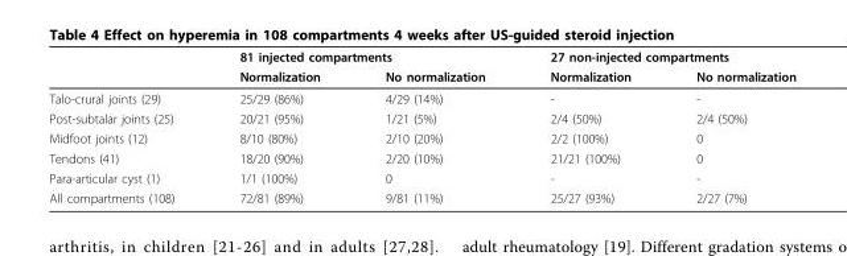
<table><thead><tr><td rowspan="2"></td><td colspan="2">81 injected compartments</td><td colspan="2">27 non-injected compartments</td></tr><tr><td>Normalization</td><td>No normalization</td><td>Normalization</td><td>No normalization</td></tr></thead><tbody><tr><td>Talo-crural joints (29)</td><td>25/29 (86%)</td><td>4/29 (14%)</td><td>-</td><td>-</td></tr><tr><td>Post-subtalar joints (25)</td><td>20/21 (95%)</td><td>1/21 (5%)</td><td>2/4 (50%)</td><td>2/4 (50%)</td></tr><tr><td>Midfoot joints (12)</td><td>8/10 (80%)</td><td>2/10 (20%)</td><td>2/2 (100%)</td><td>0</td></tr><tr><td>Tendons (41)</td><td>18/20 (90%)</td><td>2/20 (10%)</td><td>21/21 (100%)</td><td>0</td></tr><tr><td>Para-articular cyst (1)</td><td>1/1 (100%)</td><td>0</td><td>-</td><td>-</td></tr><tr><td>All compartments (108)</td><td>72/81 (89%)</td><td>9/81 (11%)</td><td>25/27 (93%)</td><td>2/27 (7%)</td></tr></tbody></table>